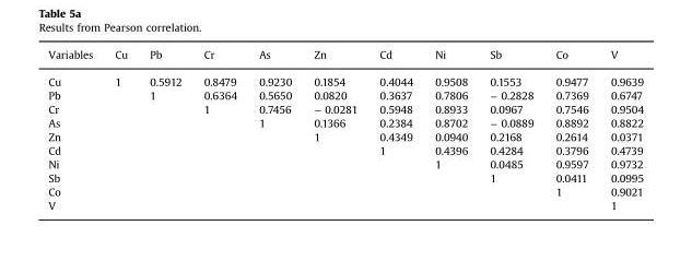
<table><thead><tr><td>Variables</td><td>Cu</td><td>Pb</td><td>Cr</td><td>As</td><td>Zn</td><td>Cd</td><td>Ni</td><td>Sb</td><td>Co</td><td>V</td></tr></thead><tbody><tr><td>Cu</td><td>1</td><td>0.5912</td><td>0.8479</td><td>0.9230</td><td>0.1854</td><td>0.4044</td><td>0.9508</td><td>0.1553</td><td>0.9477</td><td>0.9639</td></tr><tr><td>Pb</td><td></td><td>1</td><td>0.6364</td><td>0.5650</td><td>0.0820</td><td>0.3637</td><td>0.7806</td><td>− 0.2828</td><td>0.7369</td><td>0.6747</td></tr><tr><td>Cr</td><td></td><td></td><td>1</td><td>0.7456</td><td>− 0.0281</td><td>0.5948</td><td>0.8933</td><td>0.0967</td><td>0.7546</td><td>0.9504</td></tr><tr><td>As</td><td></td><td></td><td></td><td>1</td><td>0.1366</td><td>0.2384</td><td>0.8702</td><td>− 0.0889</td><td>0.8892</td><td>0.8822</td></tr><tr><td>Zn</td><td></td><td></td><td></td><td></td><td>1</td><td>0.4349</td><td>0.0940</td><td>0.2168</td><td>0.2614</td><td>0.0371</td></tr><tr><td>Cd</td><td></td><td></td><td></td><td></td><td></td><td>1</td><td>0.4396</td><td>0.4284</td><td>0.3796</td><td>0.4739</td></tr><tr><td>Ni</td><td></td><td></td><td></td><td></td><td></td><td></td><td>1</td><td>0.0485</td><td>0.9597</td><td>0.9732</td></tr><tr><td>Sb</td><td></td><td></td><td></td><td></td><td></td><td></td><td></td><td>1</td><td>0.0411</td><td>0.0995</td></tr><tr><td>Co</td><td></td><td></td><td></td><td></td><td></td><td></td><td></td><td></td><td>1</td><td>0.9021</td></tr><tr><td>V</td><td></td><td></td><td></td><td></td><td></td><td></td><td></td><td></td><td></td><td>1</td></tr></tbody></table>